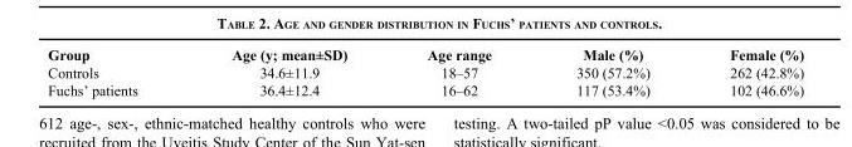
<table><thead><tr><td>Group</td><td>Age (y; mean±SD)</td><td>Age range</td><td>Male (%)</td><td>Female (%)</td></tr></thead><tbody><tr><td>Controls</td><td>34.6±11.9</td><td>18–57</td><td>350 (57.2%)</td><td>262 (42.8%)</td></tr><tr><td>Fuchs’ patients</td><td>36.4±12.4</td><td>16–62</td><td>117 (53.4%)</td><td>102 (46.6%)</td></tr></tbody></table>